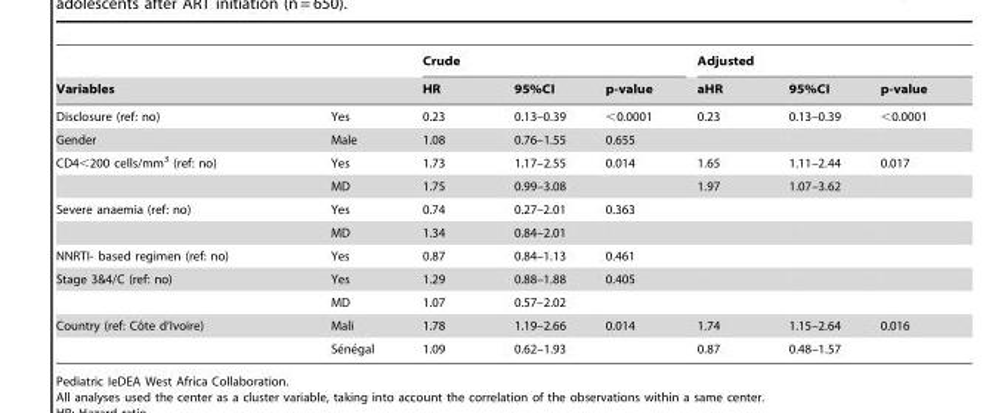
<table><thead><tr><td rowspan="2">Variables</td><td rowspan="2"></td><td colspan="3">Crude</td><td colspan="3">Adjusted</td></tr><tr><td>HR</td><td>95%CI</td><td>p-value</td><td>aHR</td><td>95%CI</td><td>p-value</td></tr></thead><tbody><tr><td>Disclosure (ref: no)</td><td>Yes</td><td>0.23</td><td>0.13–0.39</td><td>&lt;0.0001</td><td>0.23</td><td>0.13–0.39</td><td>&lt;0.0001</td></tr><tr><td>Gender</td><td>Male</td><td>1.08</td><td>0.76–1.55</td><td>0.655</td><td></td><td></td><td></td></tr><tr><td rowspan="2">CD4&lt;200 cells/mm<sup>3</sup> (ref: no)</td><td>Yes</td><td>1.73</td><td>1.17–2.55</td><td>0.014</td><td>1.65</td><td>1.11–2.44</td><td>0.017</td></tr><tr><td>MD</td><td>1.75</td><td>0.99–3.08</td><td></td><td>1.97</td><td>1.07–3.62</td><td></td></tr><tr><td rowspan="2">Severe anaemia (ref: no)</td><td>Yes</td><td>0.74</td><td>0.27–2.01</td><td>0.363</td><td></td><td></td><td></td></tr><tr><td>MD</td><td>1.34</td><td>0.84–2.01</td><td></td><td></td><td></td><td></td></tr><tr><td>NNRTI- based regimen (ref: no)</td><td>Yes</td><td>0.87</td><td>0.84–1.13</td><td>0.461</td><td></td><td></td><td></td></tr><tr><td rowspan="2">Stage 3&amp;4/C (ref: no)</td><td>Yes</td><td>1.29</td><td>0.88–1.88</td><td>0.405</td><td></td><td></td><td></td></tr><tr><td>MD</td><td>1.07</td><td>0.57–2.02</td><td></td><td></td><td></td><td></td></tr><tr><td rowspan="2">Country (ref: Coˆte d’Ivoire)</td><td>Mali</td><td>1.78</td><td>1.19–2.66</td><td>0.014</td><td>1.74</td><td>1.15–2.64</td><td>0.016</td></tr><tr><td>Se´ne´gal</td><td>1.09</td><td>0.62–1.93</td><td></td><td>0.87</td><td>0.48–1.57</td><td></td></tr></tbody></table>